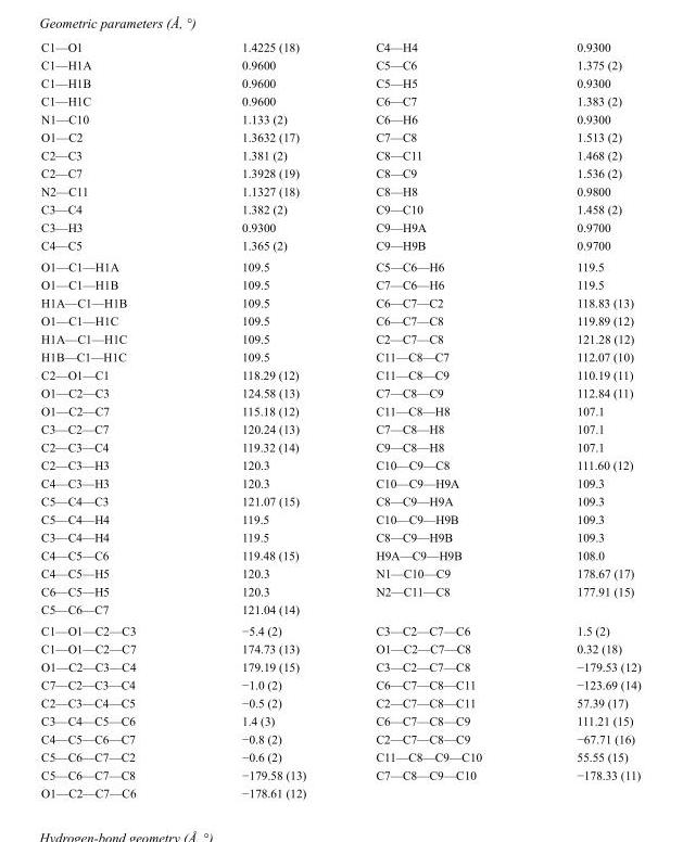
<table><tbody><tr><td>C1—O1</td><td>1.4225 (18)</td><td>C4—H4</td><td>0.9300</td></tr><tr><td>C1—H1A</td><td>0.9600</td><td>C5—C6</td><td>1.375 (2)</td></tr><tr><td>C1—H1B</td><td>0.9600</td><td>C5—H5</td><td>0.9300</td></tr><tr><td>C1—H1C</td><td>0.9600</td><td>C6—C7</td><td>1.383 (2)</td></tr><tr><td>N1—C10</td><td>1.133 (2)</td><td>C6—H6</td><td>0.9300</td></tr><tr><td>O1—C2</td><td>1.3632 (17)</td><td>C7—C8</td><td>1.513 (2)</td></tr><tr><td>C2—C3</td><td>1.381 (2)</td><td>C8—C11</td><td>1.468 (2)</td></tr><tr><td>C2—C7</td><td>1.3928 (19)</td><td>C8—C9</td><td>1.536 (2)</td></tr><tr><td>N2—C11</td><td>1.1327 (18)</td><td>C8—H8</td><td>0.9800</td></tr><tr><td>C3—C4</td><td>1.382 (2)</td><td>C9—C10</td><td>1.458 (2)</td></tr><tr><td>C3—H3</td><td>0.9300</td><td>C9—H9A</td><td>0.9700</td></tr><tr><td>C4—C5</td><td>1.365 (2)</td><td>C9—H9B</td><td>0.9700</td></tr><tr><td>O1—C1—H1A</td><td>109.5</td><td>C5—C6—H6</td><td>119.5</td></tr><tr><td>O1—C1—H1B</td><td>109.5</td><td>C7—C6—H6</td><td>119.5</td></tr><tr><td>H1A—C1—H1B</td><td>109.5</td><td>C6—C7—C2</td><td>118.83 (13)</td></tr><tr><td>O1—C1—H1C</td><td>109.5</td><td>C6—C7—C8</td><td>119.89 (12)</td></tr><tr><td>H1A—C1—H1C</td><td>109.5</td><td>C2—C7—C8</td><td>121.28 (12)</td></tr><tr><td>H1B—C1—H1C</td><td>109.5</td><td>C11—C8—C7</td><td>112.07 (10)</td></tr><tr><td>C2—O1—C1</td><td>118.29 (12)</td><td>C11—C8—C9</td><td>110.19 (11)</td></tr><tr><td>O1—C2—C3</td><td>124.58 (13)</td><td>C7—C8—C9</td><td>112.84 (11)</td></tr><tr><td>O1—C2—C7</td><td>115.18 (12)</td><td>C11—C8—H8</td><td>107.1</td></tr><tr><td>C3—C2—C7</td><td>120.24 (13)</td><td>C7—C8—H8</td><td>107.1</td></tr><tr><td>C2—C3—C4</td><td>119.32 (14)</td><td>C9—C8—H8</td><td>107.1</td></tr><tr><td>C2—C3—H3</td><td>120.3</td><td>C10—C9—C8</td><td>111.60 (12)</td></tr><tr><td>C4—C3—H3</td><td>120.3</td><td>C10—C9—H9A</td><td>109.3</td></tr><tr><td>C5—C4—C3</td><td>121.07 (15)</td><td>C8—C9—H9A</td><td>109.3</td></tr><tr><td>C5—C4—H4</td><td>119.5</td><td>C10—C9—H9B</td><td>109.3</td></tr><tr><td>C3—C4—H4</td><td>119.5</td><td>C8—C9—H9B</td><td>109.3</td></tr><tr><td>C4—C5—C6</td><td>119.48 (15)</td><td>H9A—C9—H9B</td><td>108.0</td></tr><tr><td>C4—C5—H5</td><td>120.3</td><td>N1—C10—C9</td><td>178.67 (17)</td></tr><tr><td>C6—C5—H5</td><td>120.3</td><td>N2—C11—C8</td><td>177.91 (15)</td></tr><tr><td>C5—C6—C7</td><td>121.04 (14)</td><td></td><td></td></tr><tr><td>C1—O1—C2—C3</td><td>−5.4 (2)</td><td>C3—C2—C7—C6</td><td>1.5 (2)</td></tr><tr><td>C1—O1—C2—C7</td><td>174.73 (13)</td><td>O1—C2—C7—C8</td><td>0.32 (18)</td></tr><tr><td>O1—C2—C3—C4</td><td>179.19 (15)</td><td>C3—C2—C7—C8</td><td>−179.53 (12)</td></tr><tr><td>C7—C2—C3—C4</td><td>−1.0 (2)</td><td>C6—C7—C8—C11</td><td>−123.69 (14)</td></tr><tr><td>C2—C3—C4—C5</td><td>−0.5 (2)</td><td>C2—C7—C8—C11</td><td>57.39 (17)</td></tr><tr><td>C3—C4—C5—C6</td><td>1.4 (3)</td><td>C6—C7—C8—C9</td><td>111.21 (15)</td></tr><tr><td>C4—C5—C6—C7</td><td>−0.8 (2)</td><td>C2—C7—C8—C9</td><td>−67.71 (16)</td></tr><tr><td>C5—C6—C7—C2</td><td>−0.6 (2)</td><td>C11—C8—C9—C10</td><td>55.55 (15)</td></tr><tr><td>C5—C6—C7—C8</td><td>−179.58 (13)</td><td>C7—C8—C9—C10</td><td>−178.33 (11)</td></tr><tr><td>O1—C2—C7—C6</td><td>−178.61 (12)</td><td></td><td></td></tr></tbody></table>